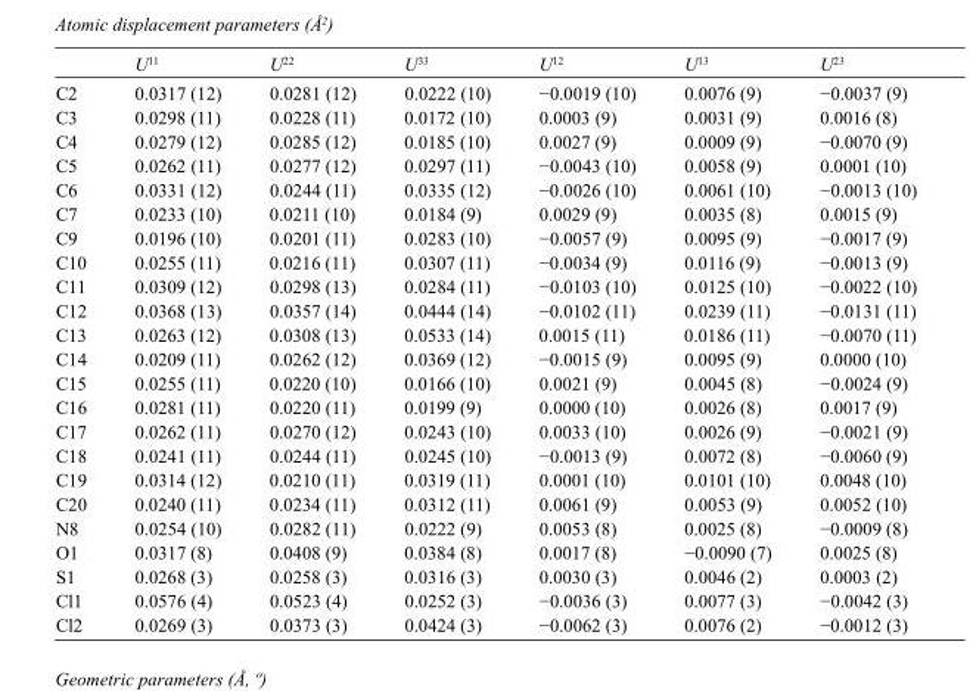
<table><thead><tr><td></td><td>U<sup>11</sup></td><td>U<sup>22</sup></td><td>U<sup>33</sup></td><td>U<sup>12</sup></td><td>U<sup>13</sup></td><td>U<sup>23</sup></td></tr></thead><tbody><tr><td>C2</td><td>0.0317 (12)</td><td>0.0281 (12)</td><td>0.0222 (10)</td><td>−0.0019 (10)</td><td>0.0076 (9)</td><td>−0.0037 (9)</td></tr><tr><td>C3</td><td>0.0298 (11)</td><td>0.0228 (11)</td><td>0.0172 (10)</td><td>0.0003 (9)</td><td>0.0031 (9)</td><td>0.0016 (8)</td></tr><tr><td>C4</td><td>0.0279 (12)</td><td>0.0285 (12)</td><td>0.0185 (10)</td><td>0.0027 (9)</td><td>0.0009 (9)</td><td>−0.0070 (9)</td></tr><tr><td>C5</td><td>0.0262 (11)</td><td>0.0277 (12)</td><td>0.0297 (11)</td><td>−0.0043 (10)</td><td>0.0058 (9)</td><td>0.0001 (10)</td></tr><tr><td>C6</td><td>0.0331 (12)</td><td>0.0244 (11)</td><td>0.0335 (12)</td><td>−0.0026 (10)</td><td>0.0061 (10)</td><td>−0.0013 (10)</td></tr><tr><td>C7</td><td>0.0233 (10)</td><td>0.0211 (10)</td><td>0.0184 (9)</td><td>0.0029 (9)</td><td>0.0035 (8)</td><td>0.0015 (9)</td></tr><tr><td>C9</td><td>0.0196 (10)</td><td>0.0201 (11)</td><td>0.0283 (10)</td><td>−0.0057 (9)</td><td>0.0095 (9)</td><td>−0.0017 (9)</td></tr><tr><td>C10</td><td>0.0255 (11)</td><td>0.0216 (11)</td><td>0.0307 (11)</td><td>−0.0034 (9)</td><td>0.0116 (9)</td><td>−0.0013 (9)</td></tr><tr><td>C11</td><td>0.0309 (12)</td><td>0.0298 (13)</td><td>0.0284 (11)</td><td>−0.0103 (10)</td><td>0.0125 (10)</td><td>−0.0022 (10)</td></tr><tr><td>C12</td><td>0.0368 (13)</td><td>0.0357 (14)</td><td>0.0444 (14)</td><td>−0.0102 (11)</td><td>0.0239 (11)</td><td>−0.0131 (11)</td></tr><tr><td>C13</td><td>0.0263 (12)</td><td>0.0308 (13)</td><td>0.0533 (14)</td><td>0.0015 (11)</td><td>0.0186 (11)</td><td>−0.0070 (11)</td></tr><tr><td>C14</td><td>0.0209 (11)</td><td>0.0262 (12)</td><td>0.0369 (12)</td><td>−0.0015 (9)</td><td>0.0095 (9)</td><td>0.0000 (10)</td></tr><tr><td>C15</td><td>0.0255 (11)</td><td>0.0220 (10)</td><td>0.0166 (10)</td><td>0.0021 (9)</td><td>0.0045 (8)</td><td>−0.0024 (9)</td></tr><tr><td>C16</td><td>0.0281 (11)</td><td>0.0220 (11)</td><td>0.0199 (9)</td><td>0.0000 (10)</td><td>0.0026 (8)</td><td>0.0017 (9)</td></tr><tr><td>C17</td><td>0.0262 (11)</td><td>0.0270 (12)</td><td>0.0243 (10)</td><td>0.0033 (10)</td><td>0.0026 (9)</td><td>−0.0021 (9)</td></tr><tr><td>C18</td><td>0.0241 (11)</td><td>0.0244 (11)</td><td>0.0245 (10)</td><td>−0.0013 (9)</td><td>0.0072 (8)</td><td>−0.0060 (9)</td></tr><tr><td>C19</td><td>0.0314 (12)</td><td>0.0210 (11)</td><td>0.0319 (11)</td><td>0.0001 (10)</td><td>0.0101 (10)</td><td>0.0048 (10)</td></tr><tr><td>C20</td><td>0.0240 (11)</td><td>0.0234 (11)</td><td>0.0312 (11)</td><td>0.0061 (9)</td><td>0.0053 (9)</td><td>0.0052 (10)</td></tr><tr><td>N8</td><td>0.0254 (10)</td><td>0.0282 (11)</td><td>0.0222 (9)</td><td>0.0053 (8)</td><td>0.0025 (8)</td><td>−0.0009 (8)</td></tr><tr><td>O1</td><td>0.0317 (8)</td><td>0.0408 (9)</td><td>0.0384 (8)</td><td>0.0017 (8)</td><td>−0.0090 (7)</td><td>0.0025 (8)</td></tr><tr><td>S1</td><td>0.0268 (3)</td><td>0.0258 (3)</td><td>0.0316 (3)</td><td>0.0030 (3)</td><td>0.0046 (2)</td><td>0.0003 (2)</td></tr><tr><td>Cl1</td><td>0.0576 (4)</td><td>0.0523 (4)</td><td>0.0252 (3)</td><td>−0.0036 (3)</td><td>0.0077 (3)</td><td>−0.0042 (3)</td></tr><tr><td>Cl2</td><td>0.0269 (3)</td><td>0.0373 (3)</td><td>0.0424 (3)</td><td>−0.0062 (3)</td><td>0.0076 (2)</td><td>−0.0012 (3)</td></tr></tbody></table>